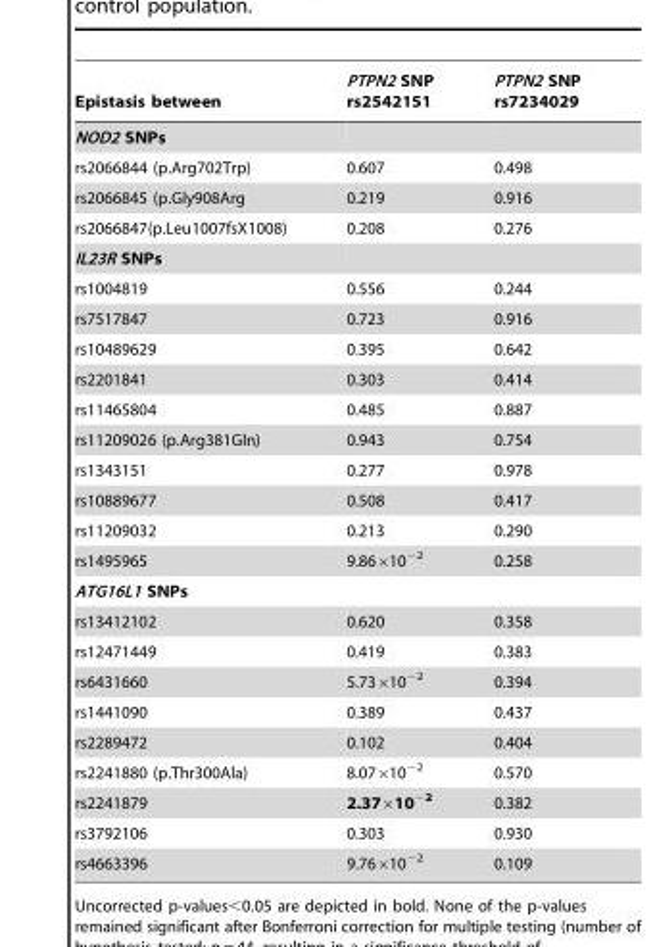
<table><thead><tr><td>Epistasis between</td><td>PTPN2 SNP rs2542151</td><td>PTPN2 SNP rs7234029</td></tr></thead><tbody><tr><td colspan="3">NOD2 SNPs</td></tr><tr><td>rs2066844 (p.Arg702Trp)</td><td>0.607</td><td>0.498</td></tr><tr><td>rs2066845 (p.Gly908Arg</td><td>0.219</td><td>0.916</td></tr><tr><td>rs2066847(p.Leu1007fsX1008)</td><td>0.208</td><td>0.276</td></tr><tr><td colspan="3">IL23R SNPs</td></tr><tr><td>rs1004819</td><td>0.556</td><td>0.244</td></tr><tr><td>rs7517847</td><td>0.723</td><td>0.916</td></tr><tr><td>rs10489629</td><td>0.395</td><td>0.642</td></tr><tr><td>rs2201841</td><td>0.303</td><td>0.414</td></tr><tr><td>rs11465804</td><td>0.485</td><td>0.887</td></tr><tr><td>rs11209026 (p.Arg381Gln)</td><td>0.943</td><td>0.754</td></tr><tr><td>rs1343151</td><td>0.277</td><td>0.978</td></tr><tr><td>rs10889677</td><td>0.508</td><td>0.417</td></tr><tr><td>rs11209032</td><td>0.213</td><td>0.290</td></tr><tr><td>rs1495965</td><td>9.86×10<sup>−2</sup></td><td>0.258</td></tr><tr><td colspan="3">ATG16L1 SNPs</td></tr><tr><td>rs13412102</td><td>0.620</td><td>0.358</td></tr><tr><td>rs12471449</td><td>0.419</td><td>0.383</td></tr><tr><td>rs6431660</td><td>5.73×10<sup>−2</sup></td><td>0.394</td></tr><tr><td>rs1441090</td><td>0.389</td><td>0.437</td></tr><tr><td>rs2289472</td><td>0.102</td><td>0.404</td></tr><tr><td>rs2241880 (p.Thr300Ala)</td><td>8.07×10<sup>−2</sup></td><td>0.570</td></tr><tr><td>rs2241879</td><td>2.37×10<sup>−2</sup></td><td>0.382</td></tr><tr><td>rs3792106</td><td>0.303</td><td>0.930</td></tr><tr><td>rs4663396</td><td>9.76×10<sup>−2</sup></td><td>0.109</td></tr></tbody></table>